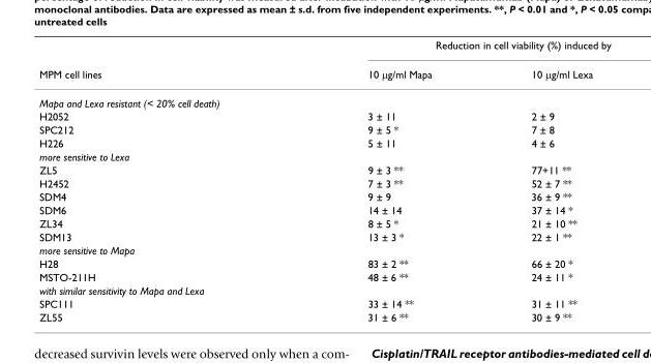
<table><thead><tr><td rowspan="2">MPM cell lines</td><td colspan="2">Reduction in cell viability (%) induced by</td></tr><tr><td>10 µg/ml Mapa</td><td>10 µg/ml Lexa</td></tr></thead><tbody><tr><td colspan="3">Mapa and Lexa resistant (&lt; 20% cell death)</td></tr><tr><td>H2052</td><td>3 ± 11</td><td>2 ± 9</td></tr><tr><td>SPC212</td><td>9 ± 5 *</td><td>7 ± 8</td></tr><tr><td>H226</td><td>5 ± 11</td><td>4 ± 6</td></tr><tr><td colspan="3">more sensitive to Lexa</td></tr><tr><td>ZL5</td><td>9 ± 3 **</td><td>77+11 **</td></tr><tr><td>H2452</td><td>7 ± 3 **</td><td>52 ± 7 **</td></tr><tr><td>SDM4</td><td>9 ± 9</td><td>36 ± 9 **</td></tr><tr><td>SDM6</td><td>14 ± 14</td><td>37 ± 14 *</td></tr><tr><td>ZL34</td><td>8 ± 5 *</td><td>21 ± 10 **</td></tr><tr><td>SDM13</td><td>13 ± 3 *</td><td>22 ± 1 **</td></tr><tr><td colspan="3">more sensitive to Mapa</td></tr><tr><td>H28</td><td>83 ± 2 **</td><td>66 ± 20 *</td></tr><tr><td>MSTO-211H</td><td>48 ± 6 **</td><td>24 ± 11 *</td></tr><tr><td colspan="3">with similar sensitivity to Mapa and Lexa</td></tr><tr><td>SPC111</td><td>33 ± 14 **</td><td>31 ± 11 **</td></tr><tr><td>ZL55</td><td>31 ± 6 **</td><td>30 ± 9 **</td></tr></tbody></table>